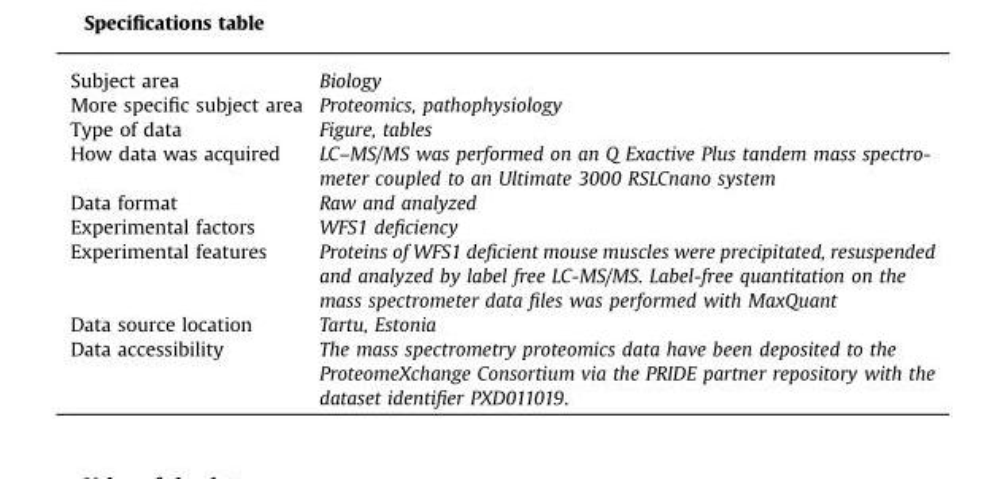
<table><tbody><tr><td>Subject area</td><td>Biology</td></tr><tr><td>More specific subject area</td><td>Proteomics, pathophysiology</td></tr><tr><td>Type of data</td><td>Figure, tables</td></tr><tr><td>How data was acquired</td><td>LC–MS/MS was performed on an Q Exactive Plus tandem mass spectro- meter coupled to an Ultimate 3000 RSLCnano system</td></tr><tr><td>Data format</td><td>Raw and analyzed</td></tr><tr><td>Experimental factors</td><td>WFS1 deficiency</td></tr><tr><td>Experimental features</td><td>Proteins of WFS1 deficient mouse muscles were precipitated, resuspended and analyzed by label free LC-MS/MS. Label-free quantitation on the mass spectrometer data files was performed with MaxQuant</td></tr><tr><td>Data source location</td><td>Tartu, Estonia</td></tr><tr><td>Data accessibility</td><td>The mass spectrometry proteomics data have been deposited to the ProteomeXchange Consortium via the PRIDE partner repository with the dataset identifier PXD011019.</td></tr></tbody></table>